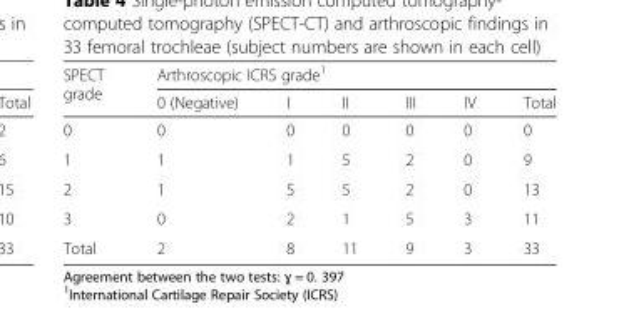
<table><thead><tr><td rowspan="2">SPECT grade</td><td colspan="6">Arthroscopic ICRS grade<sup>1</sup></td></tr><tr><td>0 (Negative)</td><td>I</td><td>II</td><td>III</td><td>IV</td><td>Total</td></tr></thead><tbody><tr><td>0</td><td>0</td><td>0</td><td>0</td><td>0</td><td>0</td><td>0</td></tr><tr><td>1</td><td>1</td><td>1</td><td>5</td><td>2</td><td>0</td><td>9</td></tr><tr><td>2</td><td>1</td><td>5</td><td>5</td><td>2</td><td>0</td><td>13</td></tr><tr><td>3</td><td>0</td><td>2</td><td>1</td><td>5</td><td>3</td><td>11</td></tr><tr><td>Total</td><td>2</td><td>8</td><td>11</td><td>9</td><td>3</td><td>33</td></tr></tbody></table>